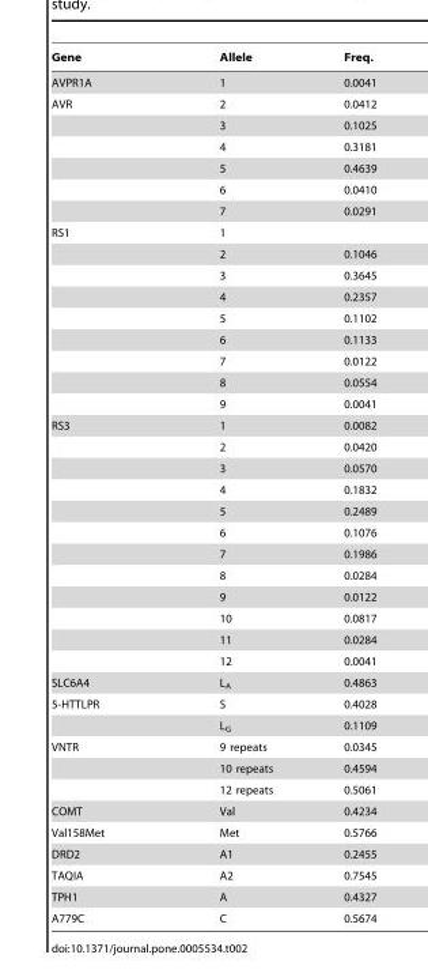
<table><thead><tr><td>Gene</td><td>Allele</td><td>Freq.</td></tr></thead><tbody><tr><td>AVPR1A</td><td>1</td><td>0.0041</td></tr><tr><td rowspan="6">AVR</td><td>2</td><td>0.0412</td></tr><tr><td>3</td><td>0.1025</td></tr><tr><td>4</td><td>0.3181</td></tr><tr><td>5</td><td>0.4639</td></tr><tr><td>6</td><td>0.0410</td></tr><tr><td>7</td><td>0.0291</td></tr><tr><td rowspan="9">RS1</td><td>1</td><td></td></tr><tr><td>2</td><td>0.1046</td></tr><tr><td>3</td><td>0.3645</td></tr><tr><td>4</td><td>0.2357</td></tr><tr><td>5</td><td>0.1102</td></tr><tr><td>6</td><td>0.1133</td></tr><tr><td>7</td><td>0.0122</td></tr><tr><td>8</td><td>0.0554</td></tr><tr><td>9</td><td>0.0041</td></tr><tr><td rowspan="12">RS3</td><td>1</td><td>0.0082</td></tr><tr><td>2</td><td>0.0420</td></tr><tr><td>3</td><td>0.0570</td></tr><tr><td>4</td><td>0.1832</td></tr><tr><td>5</td><td>0.2489</td></tr><tr><td>6</td><td>0.1076</td></tr><tr><td>7</td><td>0.1986</td></tr><tr><td>8</td><td>0.0284</td></tr><tr><td>9</td><td>0.0122</td></tr><tr><td>10</td><td>0.0817</td></tr><tr><td>11</td><td>0.0284</td></tr><tr><td>12</td><td>0.0041</td></tr><tr><td>SLC6A4</td><td>L<sub>A</sub></td><td>0.4863</td></tr><tr><td rowspan="2">5-HTTLPR</td><td>S</td><td>0.4028</td></tr><tr><td>L<sub>G</sub></td><td>0.1109</td></tr><tr><td rowspan="3">VNTR</td><td>9 repeats</td><td>0.0345</td></tr><tr><td>10 repeats</td><td>0.4594</td></tr><tr><td>12 repeats</td><td>0.5061</td></tr><tr><td>COMT</td><td>Val</td><td>0.4234</td></tr><tr><td>Val158Met</td><td>Met</td><td>0.5766</td></tr><tr><td>DRD2</td><td>A1</td><td>0.2455</td></tr><tr><td>TAQIA</td><td>A2</td><td>0.7545</td></tr><tr><td>TPH1</td><td>A</td><td>0.4327</td></tr><tr><td>A779C</td><td>C</td><td>0.5674</td></tr></tbody></table>